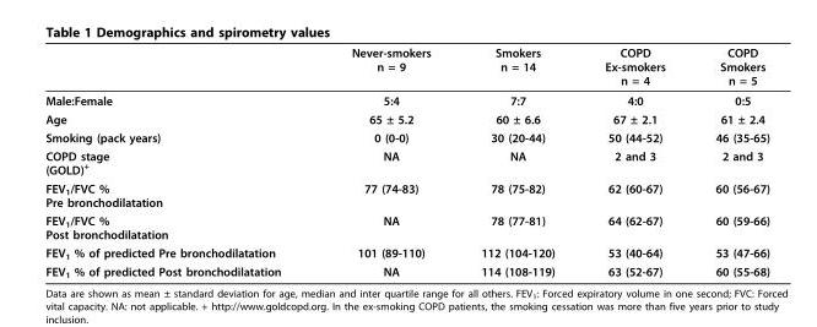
<table><thead><tr><td></td><td>Never-smokers n = 9</td><td>Smokers n = 14</td><td>COPD Ex-smokers n = 4</td><td>COPD Smokers n = 5</td></tr></thead><tbody><tr><td>Male:Female</td><td>5:4</td><td>7:7</td><td>4:0</td><td>0:5</td></tr><tr><td>Age</td><td>65 ± 5.2</td><td>60 ± 6.6</td><td>67 ± 2.1</td><td>61 ± 2.4</td></tr><tr><td>Smoking (pack years)</td><td>0 (0-0)</td><td>30 (20-44)</td><td>50 (44-52)</td><td>46 (35-65)</td></tr><tr><td>COPD stage (GOLD)<sup>+</sup></td><td>NA</td><td>NA</td><td>2 and 3</td><td>2 and 3</td></tr><tr><td>FEV<sub>1</sub>/FVC % Pre bronchodilatation</td><td>77 (74-83)</td><td>78 (75-82)</td><td>62 (60-67)</td><td>60 (56-67)</td></tr><tr><td>FEV<sub>1</sub>/FVC % Post bronchodilatation</td><td>NA</td><td>78 (77-81)</td><td>64 (62-67)</td><td>60 (59-66)</td></tr><tr><td>FEV<sub>1</sub> % of predicted Pre bronchodilatation</td><td>101 (89-110)</td><td>112 (104-120)</td><td>53 (40-64)</td><td>53 (47-66)</td></tr><tr><td>FEV<sub>1</sub> % of predicted Post bronchodilatation</td><td>NA</td><td>114 (108-119)</td><td>63 (52-67)</td><td>60 (55-68)</td></tr></tbody></table>